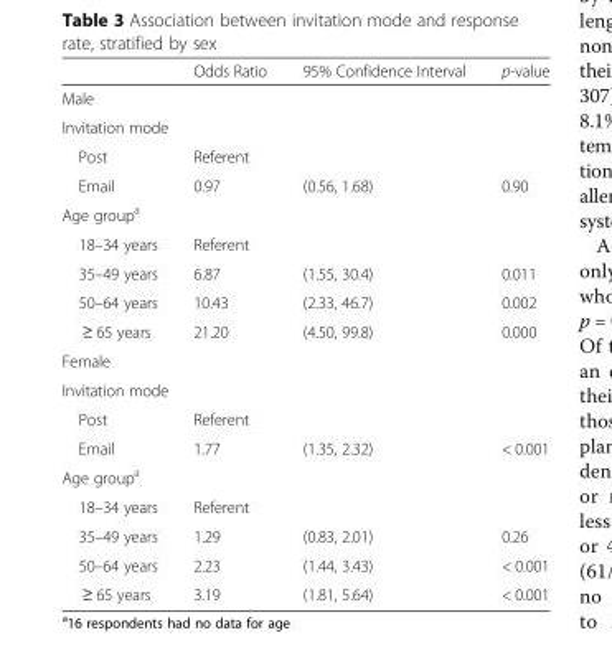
<table><thead><tr><td></td><td>Odds Ratio</td><td>95% Confidence Interval</td><td>p-value</td></tr></thead><tbody><tr><td colspan="4">Male</td></tr><tr><td colspan="4">Invitation mode</td></tr><tr><td>Post</td><td>Referent</td><td></td><td></td></tr><tr><td>Email</td><td>0.97</td><td>(0.56, 1.68)</td><td>0.90</td></tr><tr><td colspan="4">Age group<sup>a</sup></td></tr><tr><td>18–34 years</td><td>Referent</td><td></td><td></td></tr><tr><td>35–49 years</td><td>6.87</td><td>(1.55, 30.4)</td><td>0.011</td></tr><tr><td>50–64 years</td><td>10.43</td><td>(2.33, 46.7)</td><td>0.002</td></tr><tr><td>≥ 65 years</td><td>21.20</td><td>(4.50, 99.8)</td><td>0.000</td></tr><tr><td colspan="4">Female</td></tr><tr><td colspan="4">Invitation mode</td></tr><tr><td>Post</td><td>Referent</td><td></td><td></td></tr><tr><td>Email</td><td>1.77</td><td>(1.35, 2.32)</td><td>&lt; 0.001</td></tr><tr><td colspan="4">Age group<sup>a</sup></td></tr><tr><td>18–34 years</td><td>Referent</td><td></td><td></td></tr><tr><td>35–49 years</td><td>1.29</td><td>(0.83, 2.01)</td><td>0.26</td></tr><tr><td>50–64 years</td><td>2.23</td><td>(1.44, 3.43)</td><td>&lt; 0.001</td></tr><tr><td>≥ 65 years</td><td>3.19</td><td>(1.81, 5.64)</td><td>&lt; 0.001</td></tr></tbody></table>